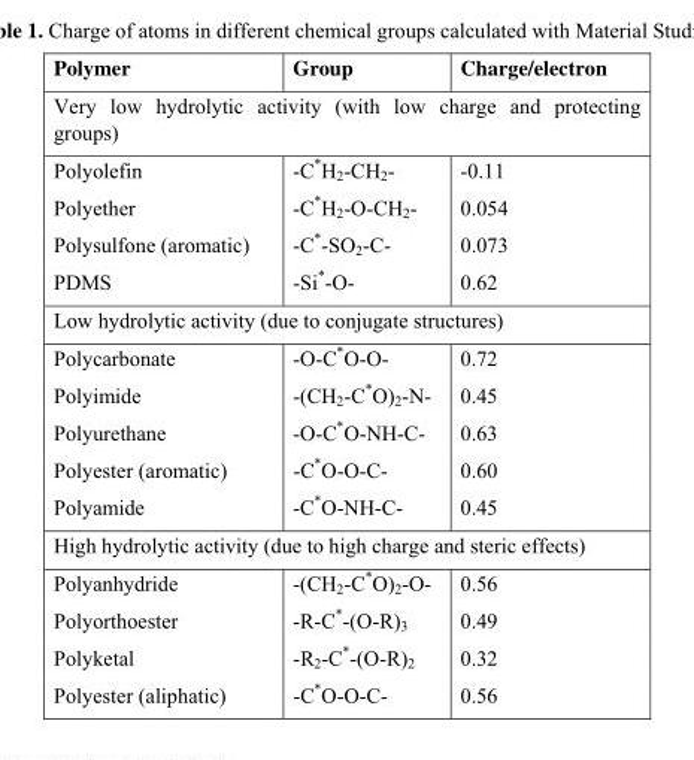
<table><thead><tr><td>Polymer</td><td>Group</td><td>Charge/electron</td></tr></thead><tbody><tr><td colspan="3">Very low hydrolytic activity (with low charge and protecting groups)</td></tr><tr><td>Polyolefin</td><td>-C*H<sub>2</sub>-CH<sub>2</sub>-</td><td>-0.11</td></tr><tr><td>Polyether</td><td>-C*H<sub>2</sub>-O-CH<sub>2</sub>-</td><td>0.054</td></tr><tr><td>Polysulfone (aromatic)</td><td>-C*-SO<sub>2</sub>-C-</td><td>0.073</td></tr><tr><td>PDMS</td><td>-Si*-O-</td><td>0.62</td></tr><tr><td colspan="3">Low hydrolytic activity (due to conjugate structures)</td></tr><tr><td>Polycarbonate</td><td>-O-C*O-O-</td><td>0.72</td></tr><tr><td>Polyimide</td><td>-(CH<sub>2</sub>-C*O)<sub>2</sub>-N-</td><td>0.45</td></tr><tr><td>Polyurethane</td><td>-O-C*O-NH-C-</td><td>0.63</td></tr><tr><td>Polyester (aromatic)</td><td>-C*O-O-C-</td><td>0.60</td></tr><tr><td>Polyamide</td><td>-C*O-NH-C-</td><td>0.45</td></tr><tr><td colspan="3">High hydrolytic activity (due to high charge and steric effects)</td></tr><tr><td>Polyanhydride</td><td>-(CH<sub>2</sub>-C*O)<sub>2</sub>-O-</td><td>0.56</td></tr><tr><td>Polyorthoester</td><td>-R-C*-(O-R)<sub>3</sub></td><td>0.49</td></tr><tr><td>Polyketal</td><td>-R<sub>2</sub>-C*-(O-R)<sub>2</sub></td><td>0.32</td></tr><tr><td>Polyester (aliphatic)</td><td>-C*O-O-C-</td><td>0.56</td></tr></tbody></table>